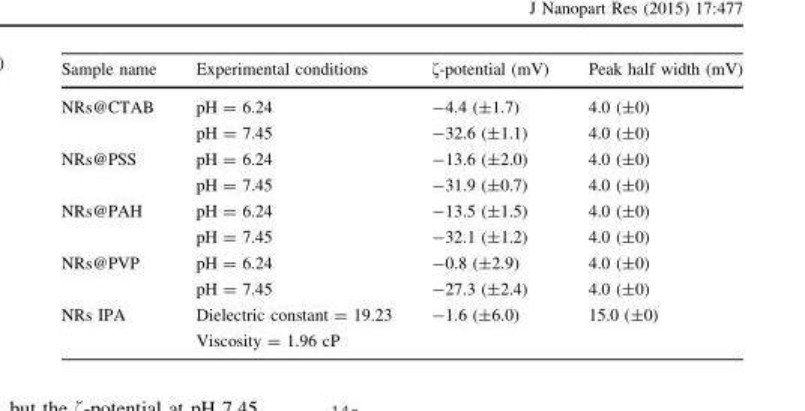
<table><thead><tr><td>Sample name</td><td>Experimental conditions</td><td>ζ-potential (mV)</td><td>Peak half width (mV)</td></tr></thead><tbody><tr><td rowspan="2">NRs@CTAB</td><td>pH = 6.24</td><td>-4.4 (±1.7)</td><td>4.0 (±0)</td></tr><tr><td>pH = 7.45</td><td>-32.6 (±1.1)</td><td>4.0 (±0)</td></tr><tr><td rowspan="2">NRs@PSS</td><td>pH = 6.24</td><td>-13.6 (±2.0)</td><td>4.0 (±0)</td></tr><tr><td>pH = 7.45</td><td>-31.9 (±0.7)</td><td>4.0 (±0)</td></tr><tr><td rowspan="2">NRs@PAH</td><td>pH = 6.24</td><td>-13.5 (±1.5)</td><td>4.0 (±0)</td></tr><tr><td>pH = 7.45</td><td>-32.1 (±1.2)</td><td>4.0 (±0)</td></tr><tr><td rowspan="2">NRs@PVP</td><td>pH = 6.24</td><td>-0.8 (±2.9)</td><td>4.0 (±0)</td></tr><tr><td>pH = 7.45</td><td>-27.3 (±2.4)</td><td>4.0 (±0)</td></tr><tr><td rowspan="2">NRs IPA</td><td>Dielectric constant = 19.23</td><td>-1.6 (±6.0)</td><td>15.0 (±0)</td></tr><tr><td>Viscosity = 1.96 cP</td><td></td><td></td></tr></tbody></table>